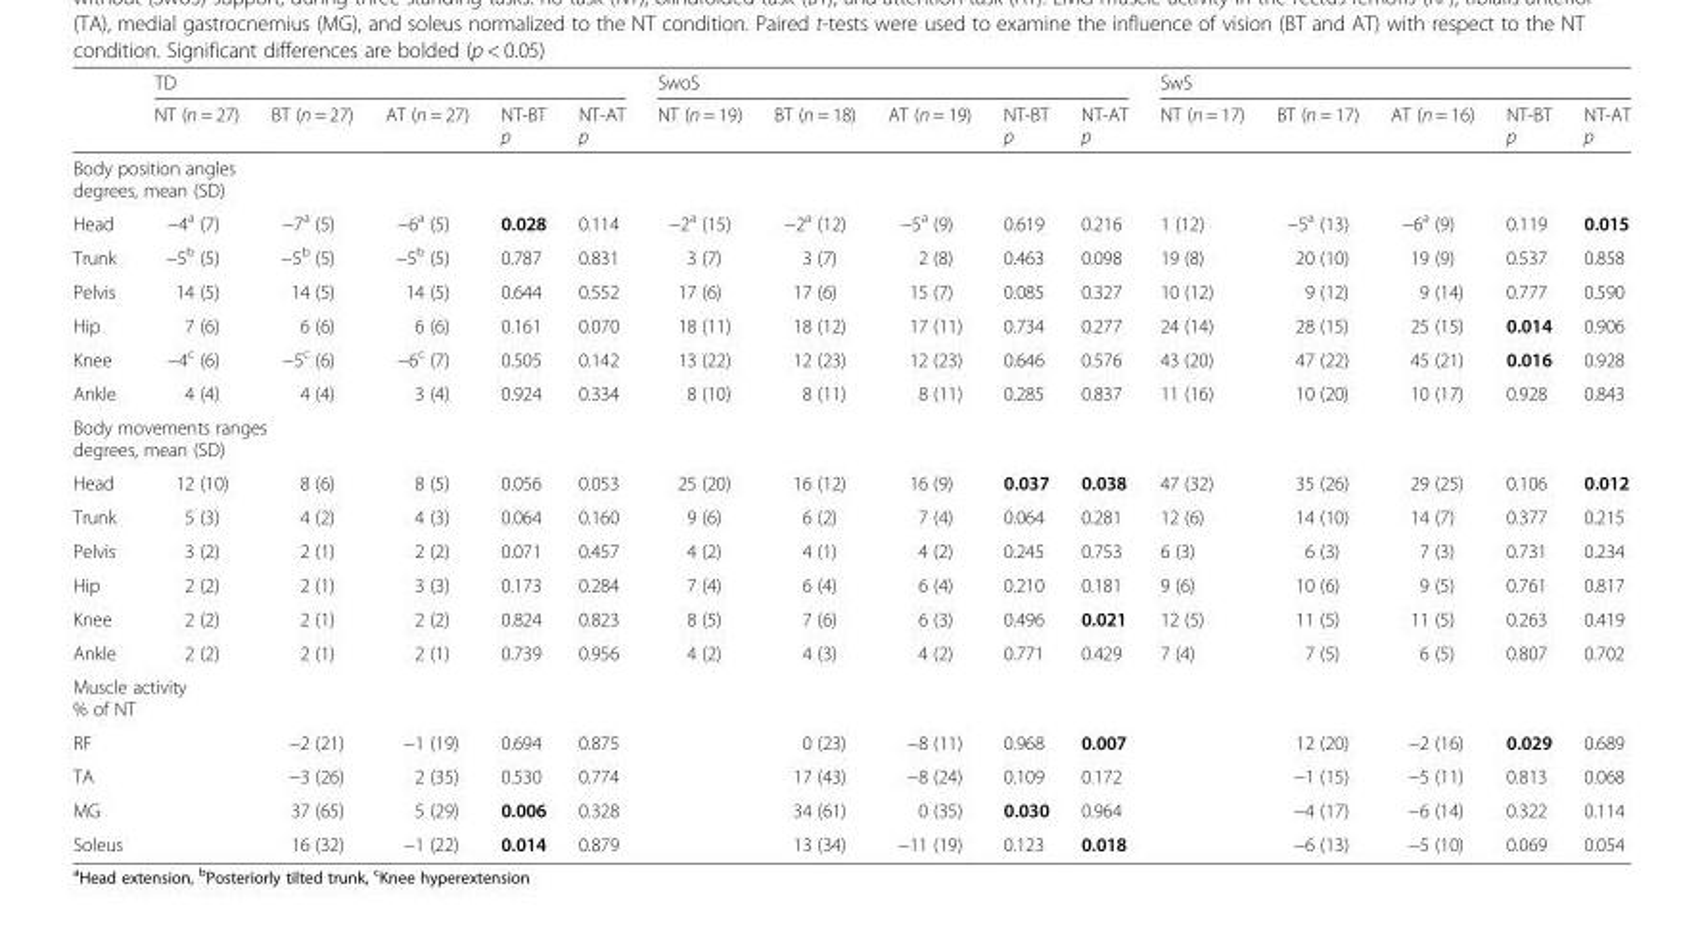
<table><thead><tr><td rowspan="2"></td><td colspan="5">TD</td><td colspan="5">SwoS</td><td colspan="5">SwS</td></tr><tr><td>NT (n = 27)</td><td>BT (n = 27)</td><td>AT (n = 27)</td><td>NT-BT p</td><td>NT-AT p</td><td>NT (n = 19)</td><td>BT (n = 18)</td><td>AT (n = 19)</td><td>NT-BT p</td><td>NT-AT p</td><td>NT (n = 17)</td><td>BT (n = 17)</td><td>AT (n = 16)</td><td>NT-BT p</td><td>NT-AT p</td></tr></thead><tbody><tr><td colspan="16">Body position angles degrees, mean (SD)</td></tr><tr><td>Head</td><td>−4<sup>a</sup> (7)</td><td>−7<sup>a</sup> (5)</td><td>−6<sup>a</sup> (5)</td><td>0.028</td><td>0.114</td><td>−2<sup>a</sup> (15)</td><td>−2<sup>a</sup> (12)</td><td>−5<sup>a</sup> (9)</td><td>0.619</td><td>0.216</td><td>1 (12)</td><td>−5<sup>a</sup> (13)</td><td>−6<sup>a</sup> (9)</td><td>0.119</td><td>0.015</td></tr><tr><td>Trunk</td><td>−5<sup>b</sup> (5)</td><td>−5<sup>b</sup> (5)</td><td>−5<sup>b</sup> (5)</td><td>0.787</td><td>0.831</td><td>3 (7)</td><td>3 (7)</td><td>2 (8)</td><td>0.463</td><td>0.098</td><td>19 (8)</td><td>20 (10)</td><td>19 (9)</td><td>0.537</td><td>0.858</td></tr><tr><td>Pelvis</td><td>14 (5)</td><td>14 (5)</td><td>14 (5)</td><td>0.644</td><td>0.552</td><td>17 (6)</td><td>17 (6)</td><td>15 (7)</td><td>0.085</td><td>0.327</td><td>10 (12)</td><td>9 (12)</td><td>9 (14)</td><td>0.777</td><td>0.590</td></tr><tr><td>Hip</td><td>7 (6)</td><td>6 (6)</td><td>6 (6)</td><td>0.161</td><td>0.070</td><td>18 (11)</td><td>18 (12)</td><td>17 (11)</td><td>0.734</td><td>0.277</td><td>24 (14)</td><td>28 (15)</td><td>25 (15)</td><td>0.014</td><td>0.906</td></tr><tr><td>Knee</td><td>−4<sup>c</sup> (6)</td><td>−5<sup>c</sup> (6)</td><td>−6<sup>c</sup> (7)</td><td>0.505</td><td>0.142</td><td>13 (22)</td><td>12 (23)</td><td>12 (23)</td><td>0.646</td><td>0.576</td><td>43 (20)</td><td>47 (22)</td><td>45 (21)</td><td>0.016</td><td>0.928</td></tr><tr><td>Ankle</td><td>4 (4)</td><td>4 (4)</td><td>3 (4)</td><td>0.924</td><td>0.334</td><td>8 (10)</td><td>8 (11)</td><td>8 (11)</td><td>0.285</td><td>0.837</td><td>11 (16)</td><td>10 (20)</td><td>10 (17)</td><td>0.928</td><td>0.843</td></tr><tr><td colspan="16">Body movements ranges degrees, mean (SD)</td></tr><tr><td>Head</td><td>12 (10)</td><td>8 (6)</td><td>8 (5)</td><td>0.056</td><td>0.053</td><td>25 (20)</td><td>16 (12)</td><td>16 (9)</td><td>0.037</td><td>0.038</td><td>47 (32)</td><td>35 (26)</td><td>29 (25)</td><td>0.106</td><td>0.012</td></tr><tr><td>Trunk</td><td>5 (3)</td><td>4 (2)</td><td>4 (3)</td><td>0.064</td><td>0.160</td><td>9 (6)</td><td>6 (2)</td><td>7 (4)</td><td>0.064</td><td>0.281</td><td>12 (6)</td><td>14 (10)</td><td>14 (7)</td><td>0.377</td><td>0.215</td></tr><tr><td>Pelvis</td><td>3 (2)</td><td>2 (1)</td><td>2 (2)</td><td>0.071</td><td>0.457</td><td>4 (2)</td><td>4 (1)</td><td>4 (2)</td><td>0.245</td><td>0.753</td><td>6 (3)</td><td>6 (3)</td><td>7 (3)</td><td>0.731</td><td>0.234</td></tr><tr><td>Hip</td><td>2 (2)</td><td>2 (1)</td><td>3 (3)</td><td>0.173</td><td>0.284</td><td>7 (4)</td><td>6 (4)</td><td>6 (4)</td><td>0.210</td><td>0.181</td><td>9 (6)</td><td>10 (6)</td><td>9 (5)</td><td>0.761</td><td>0.817</td></tr><tr><td>Knee</td><td>2 (2)</td><td>2 (1)</td><td>2 (2)</td><td>0.824</td><td>0.823</td><td>8 (5)</td><td>7 (6)</td><td>6 (3)</td><td>0.496</td><td>0.021</td><td>12 (5)</td><td>11 (5)</td><td>11 (5)</td><td>0.263</td><td>0.419</td></tr><tr><td>Ankle</td><td>2 (2)</td><td>2 (1)</td><td>2 (1)</td><td>0.739</td><td>0.956</td><td>4 (2)</td><td>4 (3)</td><td>4 (2)</td><td>0.771</td><td>0.429</td><td>7 (4)</td><td>7 (5)</td><td>6 (5)</td><td>0.807</td><td>0.702</td></tr><tr><td colspan="16">Muscle activity % of NT</td></tr><tr><td>RF</td><td></td><td>−2 (21)</td><td>−1 (19)</td><td>0.694</td><td>0.875</td><td></td><td>0 (23)</td><td>−8 (11)</td><td>0.968</td><td>0.007</td><td></td><td>12 (20)</td><td>−2 (16)</td><td>0.029</td><td>0.689</td></tr><tr><td>TA</td><td></td><td>−3 (26)</td><td>2 (35)</td><td>0.530</td><td>0.774</td><td></td><td>17 (43)</td><td>−8 (24)</td><td>0.109</td><td>0.172</td><td></td><td>−1 (15)</td><td>−5 (11)</td><td>0.813</td><td>0.068</td></tr><tr><td>MG</td><td></td><td>37 (65)</td><td>5 (29)</td><td>0.006</td><td>0.328</td><td></td><td>34 (61)</td><td>0 (35)</td><td>0.030</td><td>0.964</td><td></td><td>−4 (17)</td><td>−6 (14)</td><td>0.322</td><td>0.114</td></tr><tr><td>Soleus</td><td></td><td>16 (32)</td><td>−1 (22)</td><td>0.014</td><td>0.879</td><td></td><td>13 (34)</td><td>−11 (19)</td><td>0.123</td><td>0.018</td><td></td><td>−6 (13)</td><td>−5 (10)</td><td>0.069</td><td>0.054</td></tr></tbody></table>